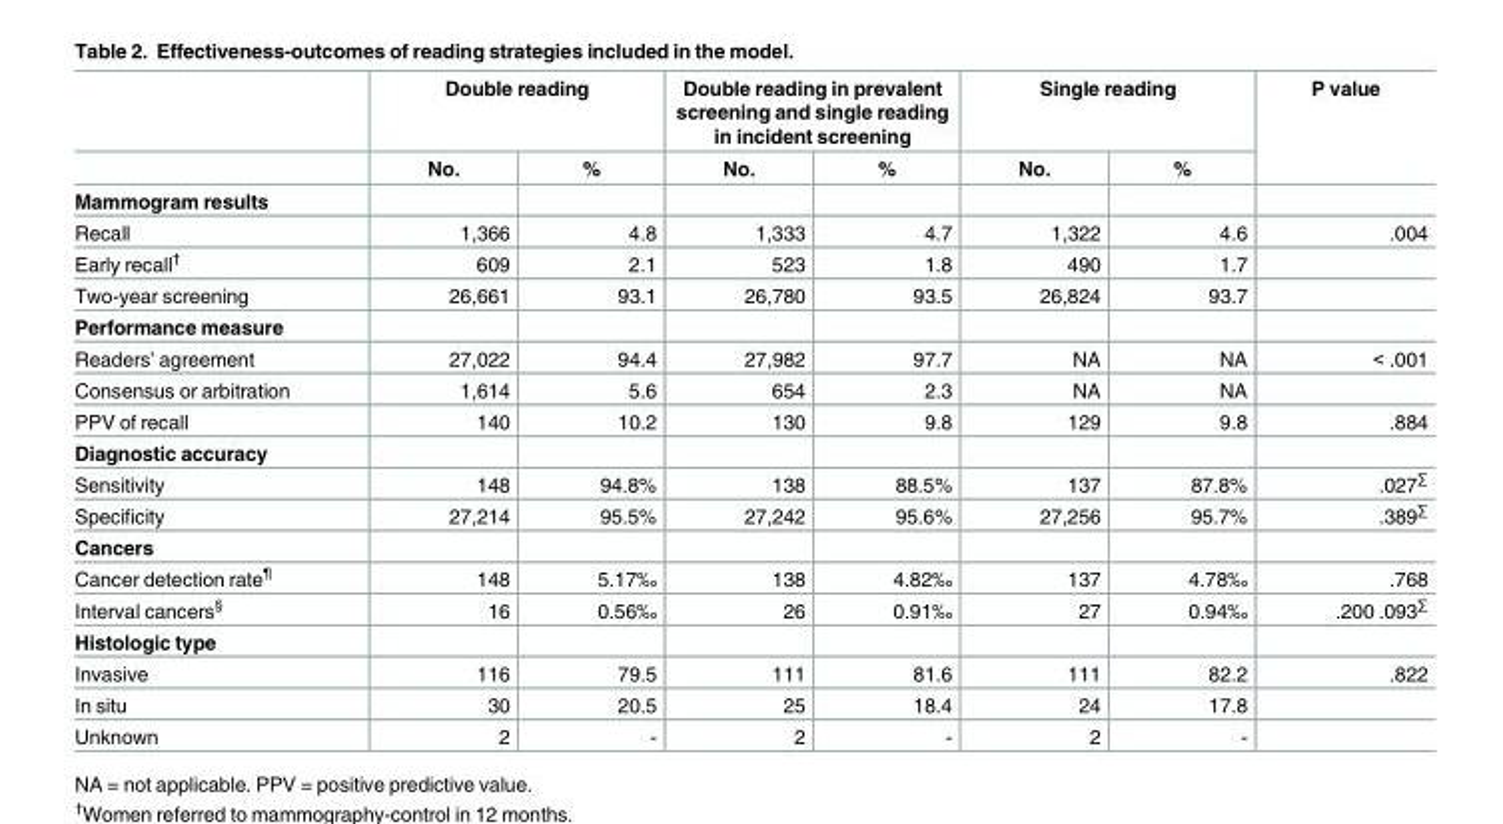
<table><thead><tr><td rowspan="2"></td><td colspan="2">Double reading</td><td colspan="2">Double reading in prevalent screening and single reading in incident screening</td><td colspan="2">Single reading</td><td rowspan="2">P value</td></tr><tr><td>No.</td><td>%</td><td>No.</td><td>%</td><td>No.</td><td>%</td></tr></thead><tbody><tr><td colspan="8">Mammogram results</td></tr><tr><td>Recall</td><td>1,366</td><td>4.8</td><td>1,333</td><td>4.7</td><td>1,322</td><td>4.6</td><td>.004</td></tr><tr><td>Early recall<sup>†</sup></td><td>609</td><td>2.1</td><td>523</td><td>1.8</td><td>490</td><td>1.7</td><td></td></tr><tr><td>Two-year screening</td><td>26,661</td><td>93.1</td><td>26,780</td><td>93.5</td><td>26,824</td><td>93.7</td><td></td></tr><tr><td colspan="8">Performance measure</td></tr><tr><td>Readers’ agreement</td><td>27,022</td><td>94.4</td><td>27,982</td><td>97.7</td><td>NA</td><td>NA</td><td>&lt; .001</td></tr><tr><td>Consensus or arbitration</td><td>1,614</td><td>5.6</td><td>654</td><td>2.3</td><td>NA</td><td>NA</td><td></td></tr><tr><td>PPV of recall</td><td>140</td><td>10.2</td><td>130</td><td>9.8</td><td>129</td><td>9.8</td><td>.884</td></tr><tr><td colspan="8">Diagnostic accuracy</td></tr><tr><td>Sensitivity</td><td>148</td><td>94.8%</td><td>138</td><td>88.5%</td><td>137</td><td>87.8%</td><td>.027<sup>∑</sup></td></tr><tr><td>Specificity</td><td>27,214</td><td>95.5%</td><td>27,242</td><td>95.6%</td><td>27,256</td><td>95.7%</td><td>.389<sup>∑</sup></td></tr><tr><td colspan="8">Cancers</td></tr><tr><td>Cancer detection rate<sup>¶</sup></td><td>148</td><td>5.17‰</td><td>138</td><td>4.82‰</td><td>137</td><td>4.78‰</td><td>.768</td></tr><tr><td>Interval cancers<sup>§</sup></td><td>16</td><td>0.56‰</td><td>26</td><td>0.91‰</td><td>27</td><td>0.94‰</td><td>.200 .093<sup>∑</sup></td></tr><tr><td colspan="8">Histologic type</td></tr><tr><td>Invasive</td><td>116</td><td>79.5</td><td>111</td><td>81.6</td><td>111</td><td>82.2</td><td>.822</td></tr><tr><td>In situ</td><td>30</td><td>20.5</td><td>25</td><td>18.4</td><td>24</td><td>17.8</td><td></td></tr><tr><td>Unknown</td><td>2</td><td>-</td><td>2</td><td>-</td><td>2</td><td>-</td><td></td></tr></tbody></table>